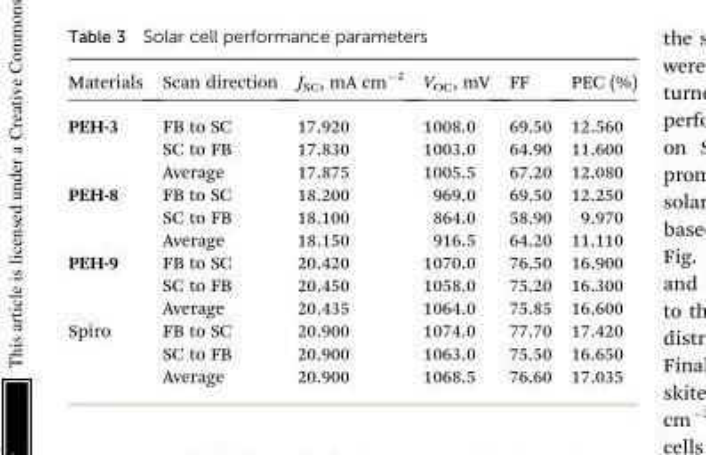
<table><thead><tr><td>Materials</td><td>Scan direction</td><td>J<sub>SC</sub>, mA cm<sup>–2</sup></td><td>V<sub>OC</sub>, mV</td><td>FF</td><td>PEC (%)</td></tr></thead><tbody><tr><td rowspan="3">PEH-3</td><td>FB to SC</td><td>17.920</td><td>1008.0</td><td>69.50</td><td>12.560</td></tr><tr><td>SC to FB</td><td>17.830</td><td>1003.0</td><td>64.90</td><td>11.600</td></tr><tr><td>Average</td><td>17.875</td><td>1005.5</td><td>67.20</td><td>12.080</td></tr><tr><td rowspan="3">PEH-8</td><td>FB to SC</td><td>18.200</td><td>969.0</td><td>69.50</td><td>12.250</td></tr><tr><td>SC to FB</td><td>18.100</td><td>864.0</td><td>58.90</td><td>9.970</td></tr><tr><td>Average</td><td>18.150</td><td>916.5</td><td>64.20</td><td>11.110</td></tr><tr><td rowspan="3">PEH-9</td><td>FB to SC</td><td>20.420</td><td>1070.0</td><td>76.50</td><td>16.900</td></tr><tr><td>SC to FB</td><td>20.450</td><td>1058.0</td><td>75.20</td><td>16.300</td></tr><tr><td>Average</td><td>20.435</td><td>1064.0</td><td>75.85</td><td>16.600</td></tr><tr><td rowspan="3">Spiro</td><td>FB to SC</td><td>20.900</td><td>1074.0</td><td>77.70</td><td>17.420</td></tr><tr><td>SC to FB</td><td>20.900</td><td>1063.0</td><td>75.50</td><td>16.650</td></tr><tr><td>Average</td><td>20.900</td><td>1068.5</td><td>76.60</td><td>17.035</td></tr></tbody></table>